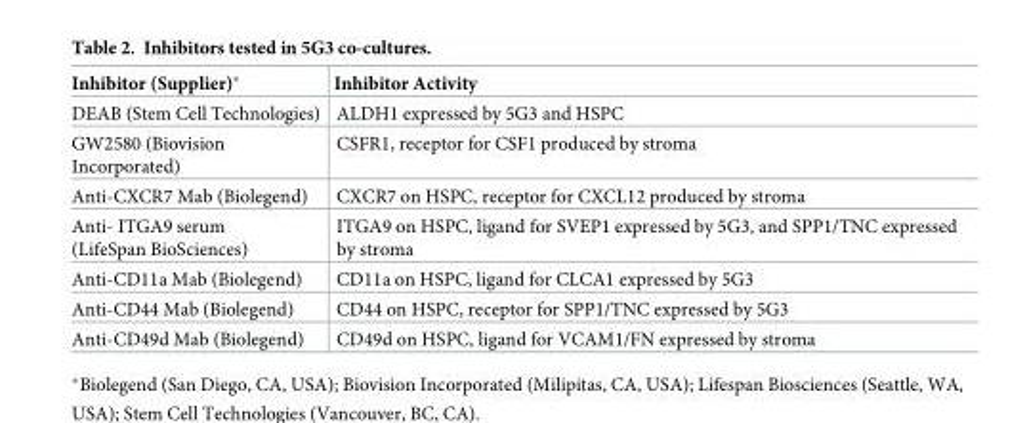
<table><thead><tr><td>Inhibitor (Supplier)*</td><td>Inhibitor Activity</td></tr></thead><tbody><tr><td>DEAB (Stem Cell Technologies)</td><td>ALDH1 expressed by 5G3 and HSPC</td></tr><tr><td>GW2580 (Biovision Incorporated)</td><td>CSFR1, receptor for CSF1 produced by stroma</td></tr><tr><td>Anti-CXCR7 Mab (Biolegend)</td><td>CXCR7 on HSPC, receptor for CXCL12 produced by stroma</td></tr><tr><td>Anti- ITGA9 serum (LifeSpan BioSciences)</td><td>ITGA9 on HSPC, ligand for SVEP1 expressed by 5G3, and SPP1/TNC expressed by stroma</td></tr><tr><td>Anti-CD11a Mab (Biolegend)</td><td>CD11a on HSPC, ligand for CLCA1 expressed by 5G3</td></tr><tr><td>Anti-CD44 Mab (Biolegend)</td><td>CD44 on HSPC, receptor for SPP1/TNC expressed by 5G3</td></tr><tr><td>Anti-CD49d Mab (Biolegend)</td><td>CD49d on HSPC, ligand for VCAM1/FN expressed by stroma</td></tr></tbody></table>